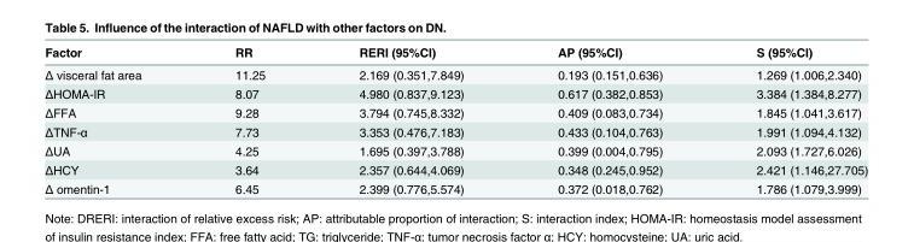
<table><thead><tr><td>Factor</td><td>RR</td><td>RERI (95%CI)</td><td>AP (95%CI)</td><td>S (95%CI)</td></tr></thead><tbody><tr><td>Δ visceral fat area</td><td>11.25</td><td>2.169 (0.351,7.849)</td><td>0.193 (0.151,0.636)</td><td>1.269 (1.006,2.340)</td></tr><tr><td>ΔHOMA-IR</td><td>8.07</td><td>4.980 (0.837,9.123)</td><td>0.617 (0.382,0.853)</td><td>3.384 (1.384,8.277)</td></tr><tr><td>ΔFFA</td><td>9.28</td><td>3.794 (0.745,8.332)</td><td>0.409 (0.083,0.734)</td><td>1.845 (1.041,3.617)</td></tr><tr><td>ΔTNF-α</td><td>7.73</td><td>3.353 (0.476,7.183)</td><td>0.433 (0.104,0.763)</td><td>1.991 (1.094,4.132)</td></tr><tr><td>ΔUA</td><td>4.25</td><td>1.695 (0.397,3.788)</td><td>0.399 (0.004,0.795)</td><td>2.093 (1.727,6.026)</td></tr><tr><td>ΔHCY</td><td>3.64</td><td>2.357 (0.644,4.069)</td><td>0.348 (0.245,0.952)</td><td>2.421 (1.146,27.705)</td></tr><tr><td>Δ omentin-1</td><td>6.45</td><td>2.399 (0.776,5.574)</td><td>0.372 (0.018,0.762)</td><td>1.786 (1.079,3.999)</td></tr></tbody></table>